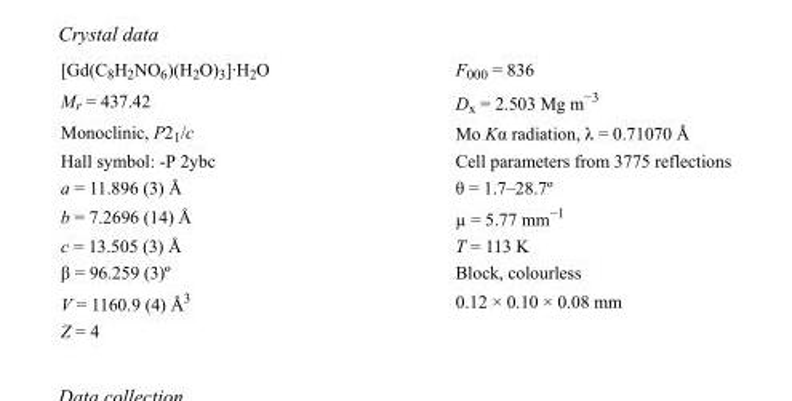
<table><tbody><tr><td>[Gd(C<sub>8</sub>H<sub>2</sub>NO<sub>6</sub>)(H<sub>2</sub>O)<sub>3</sub>]·H<sub>2</sub>O</td><td>F000 = 836</td></tr><tr><td>M<sub>r</sub> = 437.42</td><td>D<sub>x</sub> = 2.503 Mg m<sup>−3</sup></td></tr><tr><td>Monoclinic, P2<sub>1</sub>/c</td><td>Mo Kα radiation, λ = 0.71070 Å</td></tr><tr><td>Hall symbol: -P 2ybc</td><td>Cell parameters from 3775 reflections</td></tr><tr><td>a = 11.896 (3) Å</td><td>θ = 1.7–28.7º</td></tr><tr><td>b = 7.2696 (14) Å</td><td>µ = 5.77 mm<sup>−1</sup></td></tr><tr><td>c = 13.505 (3) Å</td><td>T = 113 K</td></tr><tr><td>β = 96.259 (3)º</td><td>Block, colourless</td></tr><tr><td>V = 1160.9 (4) Å<sup>3</sup></td><td>0.12 × 0.10 × 0.08 mm</td></tr><tr><td>Z = 4</td><td></td></tr></tbody></table>